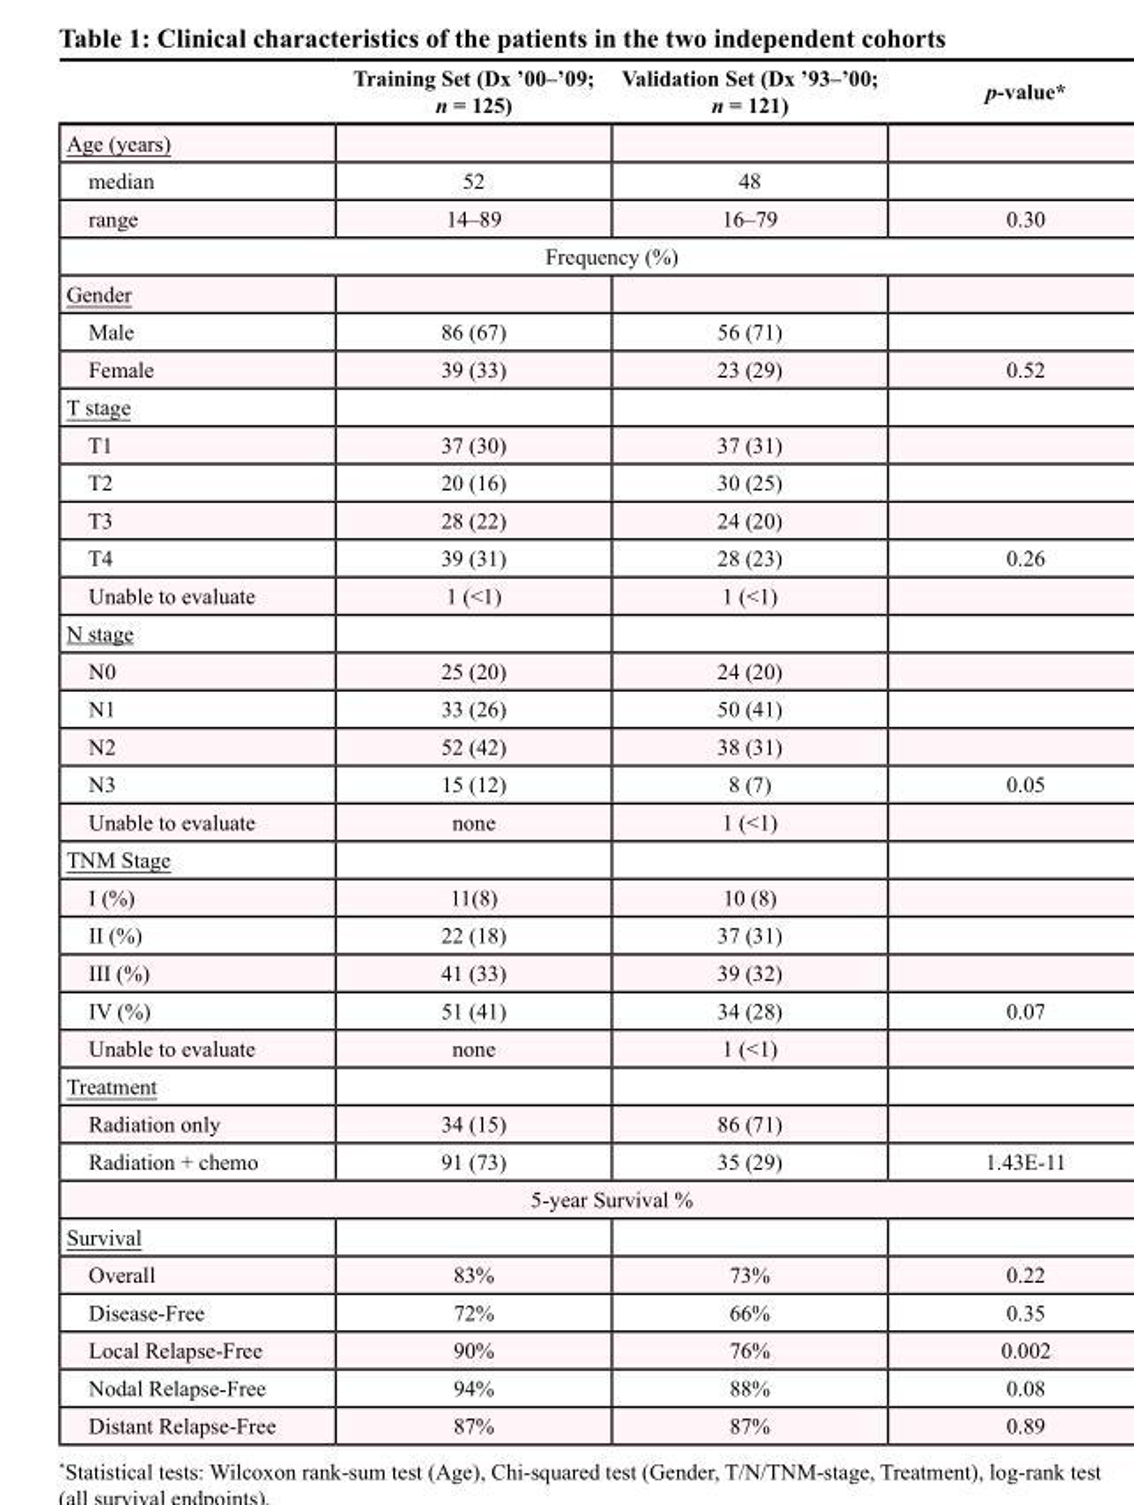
<table><thead><tr><td></td><td>Training Set (Dx ’00–’09; n = 125)</td><td>Validation Set (Dx ’93–’00; n = 121)</td><td>p-value*</td></tr></thead><tbody><tr><td colspan="4">Age (years)</td></tr><tr><td>median</td><td>52</td><td>48</td><td></td></tr><tr><td>range</td><td>14–89</td><td>16–79</td><td>0.30</td></tr><tr><td colspan="4">Frequency (%)</td></tr><tr><td colspan="4">Gender</td></tr><tr><td>Male</td><td>86 (67)</td><td>56 (71)</td><td></td></tr><tr><td>Female</td><td>39 (33)</td><td>23 (29)</td><td>0.52</td></tr><tr><td colspan="4">T stage</td></tr><tr><td>T1</td><td>37 (30)</td><td>37 (31)</td><td></td></tr><tr><td>T2</td><td>20 (16)</td><td>30 (25)</td><td></td></tr><tr><td>T3</td><td>28 (22)</td><td>24 (20)</td><td></td></tr><tr><td>T4</td><td>39 (31)</td><td>28 (23)</td><td>0.26</td></tr><tr><td>Unable to evaluate</td><td>1 (&lt;1)</td><td>1 (&lt;1)</td><td></td></tr><tr><td colspan="4">N stage</td></tr><tr><td>N0</td><td>25 (20)</td><td>24 (20)</td><td></td></tr><tr><td>N1</td><td>33 (26)</td><td>50 (41)</td><td></td></tr><tr><td>N2</td><td>52 (42)</td><td>38 (31)</td><td></td></tr><tr><td>N3</td><td>15 (12)</td><td>8 (7)</td><td>0.05</td></tr><tr><td>Unable to evaluate</td><td>none</td><td>1 (&lt;1)</td><td></td></tr><tr><td colspan="4">TNM Stage</td></tr><tr><td>I (%)</td><td>11(8)</td><td>10 (8)</td><td></td></tr><tr><td>II (%)</td><td>22 (18)</td><td>37 (31)</td><td></td></tr><tr><td>III (%)</td><td>41 (33)</td><td>39 (32)</td><td></td></tr><tr><td>IV (%)</td><td>51 (41)</td><td>34 (28)</td><td>0.07</td></tr><tr><td>Unable to evaluate</td><td>none</td><td>1 (&lt;1)</td><td></td></tr><tr><td colspan="4">Treatment</td></tr><tr><td>Radiation only</td><td>34 (15)</td><td>86 (71)</td><td></td></tr><tr><td>Radiation + chemo</td><td>91 (73)</td><td>35 (29)</td><td>1.43E-11</td></tr><tr><td colspan="4">5-year Survival %</td></tr><tr><td colspan="4">Survival</td></tr><tr><td>Overall</td><td>83%</td><td>73%</td><td>0.22</td></tr><tr><td>Disease-Free</td><td>72%</td><td>66%</td><td>0.35</td></tr><tr><td>Local Relapse-Free</td><td>90%</td><td>76%</td><td>0.002</td></tr><tr><td>Nodal Relapse-Free</td><td>94%</td><td>88%</td><td>0.08</td></tr><tr><td>Distant Relapse-Free</td><td>87%</td><td>87%</td><td>0.89</td></tr></tbody></table>